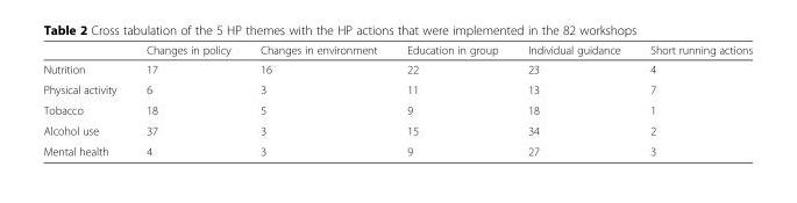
<table><thead><tr><td></td><td>Changes in policy</td><td>Changes in environment</td><td>Education in group</td><td>Individual guidance</td><td>Short running actions</td></tr></thead><tbody><tr><td>Nutrition</td><td>17</td><td>16</td><td>22</td><td>23</td><td>4</td></tr><tr><td>Physical activity</td><td>6</td><td>3</td><td>11</td><td>13</td><td>7</td></tr><tr><td>Tobacco</td><td>18</td><td>5</td><td>9</td><td>18</td><td>1</td></tr><tr><td>Alcohol use</td><td>37</td><td>3</td><td>15</td><td>34</td><td>2</td></tr><tr><td>Mental health</td><td>4</td><td>3</td><td>9</td><td>27</td><td>3</td></tr></tbody></table>